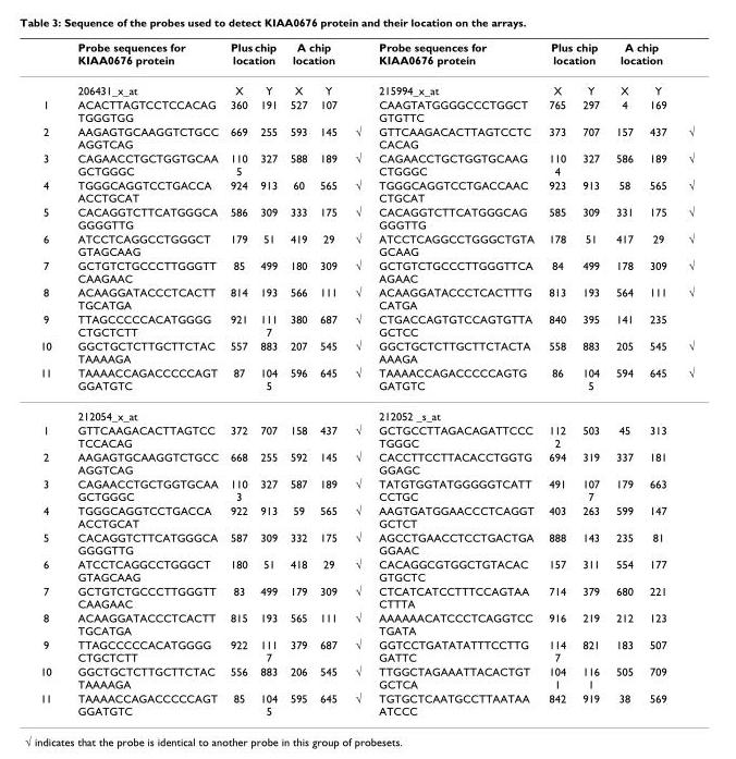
<table><thead><tr><td rowspan="2"></td><td rowspan="2">Probe sequences for KIAA0676 protein 206431_x_at</td><td colspan="2">Plus chip location</td><td colspan="2">A chip location</td><td rowspan="2"></td><td rowspan="2">Probe sequences for KIAA0676 protein 215994_x_at</td><td colspan="2">Plus chip location</td><td colspan="2">A chip location</td><td rowspan="2"></td></tr><tr><td>X</td><td>Y</td><td>X</td><td>Y</td><td>X</td><td>Y</td><td>X</td><td>Y</td></tr></thead><tbody><tr><td>1</td><td>ACACTTAGTCCTCCACAG TGGGTGG</td><td>360</td><td>191</td><td>527</td><td>107</td><td></td><td>CAAGTATGGGGCCCTGGCT GTGTTC</td><td>765</td><td>297</td><td>4</td><td>169</td><td></td></tr><tr><td>2</td><td>AAGAGTGCAAGGTCTGCC AGGTCAG</td><td>669</td><td>255</td><td>593</td><td>145</td><td>√</td><td>GTTCAAGACACTTAGTCCTC CACAG</td><td>373</td><td>707</td><td>157</td><td>437</td><td>√</td></tr><tr><td>3</td><td>CAGAACCTGCTGGTGCAA GCTGGGC</td><td>110 5</td><td>327</td><td>588</td><td>189</td><td>√</td><td>CAGAACCTGCTGGTGCAAG CTGGGC</td><td>110 4</td><td>327</td><td>586</td><td>189</td><td>√</td></tr><tr><td>4</td><td>TGGGCAGGTCCTGACCA ACCTGCAT</td><td>924</td><td>913</td><td>60</td><td>565</td><td>√</td><td>TGGGCAGGTCCTGACCAAC CTGCAT</td><td>923</td><td>913</td><td>58</td><td>565</td><td>√</td></tr><tr><td>5</td><td>CACAGGTCTTCATGGGCA GGGGTTG</td><td>586</td><td>309</td><td>333</td><td>175</td><td>√</td><td>CACAGGTCTTCATGGGCAG GGGTTG</td><td>585</td><td>309</td><td>331</td><td>175</td><td>√</td></tr><tr><td>6</td><td>ATCCTCAGGCCTGGGCT GTAGCAAG</td><td>179</td><td>51</td><td>419</td><td>29</td><td>√</td><td>ATCCTCAGGCCTGGGCTGTA GCAAG</td><td>178</td><td>51</td><td>417</td><td>29</td><td>√</td></tr><tr><td>7</td><td>GCTGTCTGCCCTTGGGTT CAAGAAC</td><td>85</td><td>499</td><td>180</td><td>309</td><td>√</td><td>GCTGTCTGCCCTTGGGTTCA AGAAC</td><td>84</td><td>499</td><td>178</td><td>309</td><td>√</td></tr><tr><td>8</td><td>ACAAGGATACCCTCACTT TGCATGA</td><td>814</td><td>193</td><td>566</td><td>111</td><td>√</td><td>ACAAGGATACCCTCACTTTG CATGA</td><td>813</td><td>193</td><td>564</td><td>111</td><td>√</td></tr><tr><td>9</td><td>TTAGCCCCCACATGGGG CTGCTCTT</td><td>921</td><td>111 7</td><td>380</td><td>687</td><td>√</td><td>CTGACCAGTGTCCAGTGTTA GCTCC</td><td>840</td><td>395</td><td>141</td><td>235</td><td></td></tr><tr><td>10</td><td>GGCTGCTCTTGCTTCTAC TAAAAGA</td><td>557</td><td>883</td><td>207</td><td>545</td><td>√</td><td>GGCTGCTCTTGCTTCTACTA AAAGA</td><td>558</td><td>883</td><td>205</td><td>545</td><td>√</td></tr><tr><td rowspan="2">11</td><td>TAAAACCAGACCCCCAGT GGATGTC</td><td>87</td><td>104 5</td><td>596</td><td>645</td><td>√</td><td>TAAAACCAGACCCCCAGTG GATGTC</td><td>86</td><td>104 5</td><td>594</td><td>645</td><td>√</td></tr><tr><td>212054_x_at</td><td></td><td></td><td></td><td></td><td></td><td>212052 _s_at</td><td></td><td></td><td></td><td></td><td></td></tr><tr><td>1</td><td>GTTCAAGACACTTAGTCC TCCACAG</td><td>372</td><td>707</td><td>158</td><td>437</td><td>√</td><td>GCTGCCTTAGACAGATTCCC TGGGC</td><td>112 2</td><td>503</td><td>45</td><td>313</td><td></td></tr><tr><td>2</td><td>AAGAGTGCAAGGTCTGCC AGGTCAG</td><td>668</td><td>255</td><td>592</td><td>145</td><td>√</td><td>CACCTTCCTTACACCTGGTG GGAGC</td><td>694</td><td>319</td><td>337</td><td>181</td><td></td></tr><tr><td>3</td><td>CAGAACCTGCTGGTGCAA GCTGGGC</td><td>110 3</td><td>327</td><td>587</td><td>189</td><td>√</td><td>TATGTGGTATGGGGGTCATT CCTGC</td><td>491</td><td>107 7</td><td>179</td><td>663</td><td></td></tr><tr><td>4</td><td>TGGGCAGGTCCTGACCA ACCTGCAT</td><td>922</td><td>913</td><td>59</td><td>565</td><td>√</td><td>AAGTGATGGAACCCTCAGGT GCTCT</td><td>403</td><td>263</td><td>599</td><td>147</td><td></td></tr><tr><td>5</td><td>CACAGGTCTTCATGGGCA GGGGTTG</td><td>587</td><td>309</td><td>332</td><td>175</td><td>√</td><td>AGCCTGAACCTCCTGACTGA GGAAC</td><td>888</td><td>143</td><td>235</td><td>81</td><td></td></tr><tr><td>6</td><td>ATCCTCAGGCCTGGGCT GTAGCAAG</td><td>180</td><td>51</td><td>418</td><td>29</td><td>√</td><td>CACAGGCGTGGCTGTACAC GTGCTC</td><td>157</td><td>311</td><td>554</td><td>177</td><td></td></tr><tr><td>7</td><td>GCTGTCTGCCCTTGGGTT CAAGAAC</td><td>83</td><td>499</td><td>179</td><td>309</td><td>√</td><td>CTCATCATCCTTTCCAGTAA CTTTA</td><td>714</td><td>379</td><td>680</td><td>221</td><td></td></tr><tr><td>8</td><td>ACAAGGATACCCTCACTT TGCATGA</td><td>815</td><td>193</td><td>565</td><td>111</td><td>√</td><td>AAAAAACATCCCTCAGGTCC TGATA</td><td>916</td><td>219</td><td>212</td><td>123</td><td></td></tr><tr><td>9</td><td>TTAGCCCCCACATGGGG CTGCTCTT</td><td>922</td><td>111 7</td><td>379</td><td>687</td><td>√</td><td>GGTCCTGATATATTTCCTTG GATTC</td><td>114 7</td><td>821</td><td>183</td><td>507</td><td></td></tr><tr><td>10</td><td>GGCTGCTCTTGCTTCTAC TAAAAGA</td><td>556</td><td>883</td><td>206</td><td>545</td><td>√</td><td>TTGGCTAGAAATTACACTGT GCTCA</td><td>104 1</td><td>116 1</td><td>505</td><td>709</td><td></td></tr><tr><td>11</td><td>TAAAACCAGACCCCCAGT GGATGTC</td><td>85</td><td>104 5</td><td>595</td><td>645</td><td>√</td><td>TGTGCTCAATGCCTTAATAA ATCCC</td><td>842</td><td>919</td><td>38</td><td>569</td><td></td></tr></tbody></table>